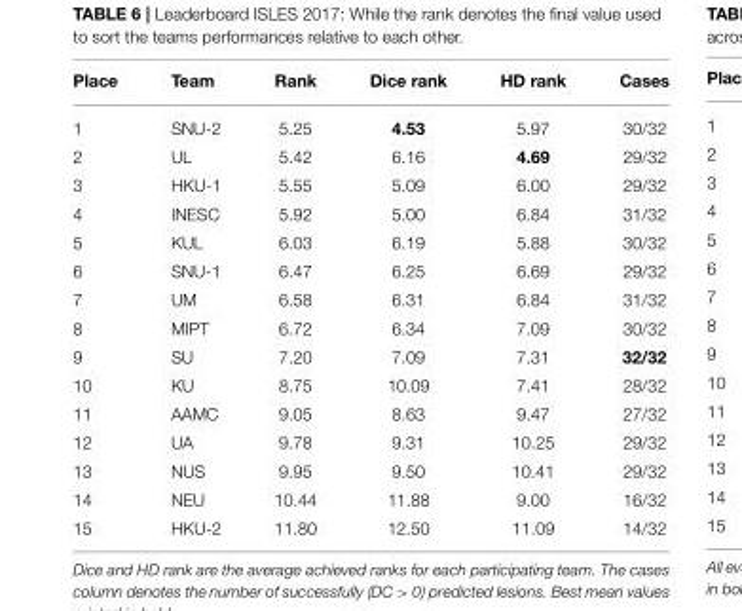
<table><thead><tr><td>Place</td><td>Team</td><td>Rank</td><td>Dice rank</td><td>HD rank</td><td>Cases</td></tr></thead><tbody><tr><td>1</td><td>SNU-2</td><td>5.25</td><td>4.53</td><td>5.97</td><td>30/32</td></tr><tr><td>2</td><td>UL</td><td>5.42</td><td>6.16</td><td>4.69</td><td>29/32</td></tr><tr><td>3</td><td>HKU-1</td><td>5.55</td><td>5.09</td><td>6.00</td><td>29/32</td></tr><tr><td>4</td><td>INESC</td><td>5.92</td><td>5.00</td><td>6.84</td><td>31/32</td></tr><tr><td>5</td><td>KUL</td><td>6.03</td><td>6.19</td><td>5.88</td><td>30/32</td></tr><tr><td>6</td><td>SNU-1</td><td>6.47</td><td>6.25</td><td>6.69</td><td>29/32</td></tr><tr><td>7</td><td>UM</td><td>6.58</td><td>6.31</td><td>6.84</td><td>31/32</td></tr><tr><td>8</td><td>MIPT</td><td>6.72</td><td>6.34</td><td>7.09</td><td>30/32</td></tr><tr><td>9</td><td>SU</td><td>7.20</td><td>7.09</td><td>7.31</td><td>32/32</td></tr><tr><td>10</td><td>KU</td><td>8.75</td><td>10.09</td><td>7.41</td><td>28/32</td></tr><tr><td>11</td><td>AAMC</td><td>9.05</td><td>8.63</td><td>9.47</td><td>27/32</td></tr><tr><td>12</td><td>UA</td><td>9.78</td><td>9.31</td><td>10.25</td><td>29/32</td></tr><tr><td>13</td><td>NUS</td><td>9.95</td><td>9.50</td><td>10.41</td><td>29/32</td></tr><tr><td>14</td><td>NEU</td><td>10.44</td><td>11.88</td><td>9.00</td><td>16/32</td></tr><tr><td>15</td><td>HKU-2</td><td>11.80</td><td>12.50</td><td>11.09</td><td>14/32</td></tr></tbody></table>